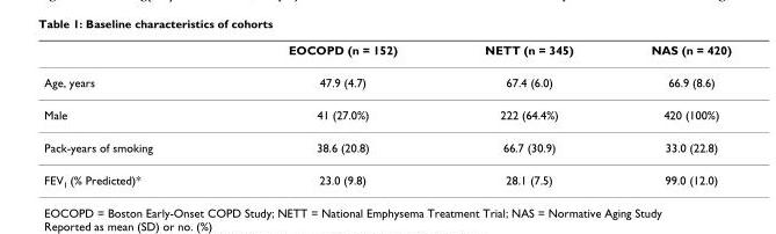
<table><thead><tr><td></td><td>EOCOPD (n = 152)</td><td>NETT (n = 345)</td><td>NAS (n = 420)</td></tr></thead><tbody><tr><td>Age, years</td><td>47.9 (4.7)</td><td>67.4 (6.0)</td><td>66.9 (8.6)</td></tr><tr><td>Male</td><td>41 (27.0%)</td><td>222 (64.4%)</td><td>420 (100%)</td></tr><tr><td>Pack-years of smoking</td><td>38.6 (20.8)</td><td>66.7 (30.9)</td><td>33.0 (22.8)</td></tr><tr><td>FEV<sub>1</sub> (% Predicted)*</td><td>23.0 (9.8)</td><td>28.1 (7.5)</td><td>99.0 (12.0)</td></tr></tbody></table>